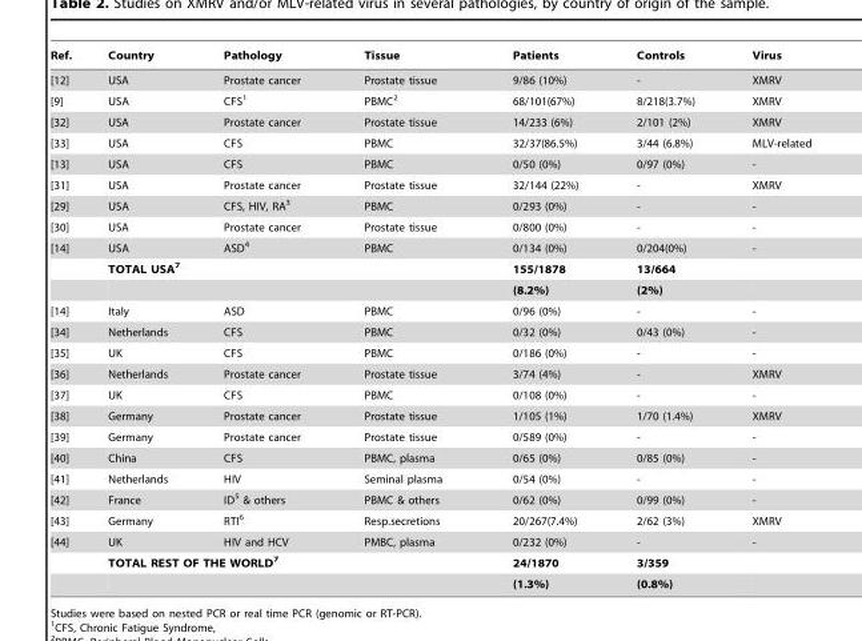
<table><thead><tr><td>Ref.</td><td>Country</td><td>Pathology</td><td>Tissue</td><td>Patients</td><td>Controls</td><td>Virus</td></tr></thead><tbody><tr><td>[12]</td><td>USA</td><td>Prostate cancer</td><td>Prostate tissue</td><td>9/86 (10%)</td><td>-</td><td>XMRV</td></tr><tr><td>[9]</td><td>USA</td><td>CFS<sup>1</sup></td><td>PBMC<sup>2</sup></td><td>68/101(67%)</td><td>8/218(3.7%)</td><td>XMRV</td></tr><tr><td>[32]</td><td>USA</td><td>Prostate cancer</td><td>Prostate tissue</td><td>14/233 (6%)</td><td>2/101 (2%)</td><td>XMRV</td></tr><tr><td>[33]</td><td>USA</td><td>CFS</td><td>PBMC</td><td>32/37(86.5%)</td><td>3/44 (6.8%)</td><td>MLV-related</td></tr><tr><td>[13]</td><td>USA</td><td>CFS</td><td>PBMC</td><td>0/50 (0%)</td><td>0/97 (0%)</td><td>-</td></tr><tr><td>[31]</td><td>USA</td><td>Prostate cancer</td><td>Prostate tissue</td><td>32/144 (22%)</td><td>-</td><td>XMRV</td></tr><tr><td>[29]</td><td>USA</td><td>CFS, HIV, RA<sup>3</sup></td><td>PBMC</td><td>0/293 (0%)</td><td>-</td><td>-</td></tr><tr><td>[30]</td><td>USA</td><td>Prostate cancer</td><td>Prostate tissue</td><td>0/800 (0%)</td><td>-</td><td>-</td></tr><tr><td rowspan="3">[14]</td><td>USA</td><td>ASD<sup>4</sup></td><td>PBMC</td><td>0/134 (0%)</td><td>0/204(0%)</td><td>-</td></tr><tr><td colspan="3">TOTAL USA<sup>7</sup></td><td>155/1878</td><td>13/664</td><td></td></tr><tr><td colspan="3"></td><td>(8.2%)</td><td>(2%)</td><td></td></tr><tr><td>[14]</td><td>Italy</td><td>ASD</td><td>PBMC</td><td>0/96 (0%)</td><td>-</td><td>-</td></tr><tr><td>[34]</td><td>Netherlands</td><td>CFS</td><td>PBMC</td><td>0/32 (0%)</td><td>0/43 (0%)</td><td>-</td></tr><tr><td>[35]</td><td>UK</td><td>CFS</td><td>PBMC</td><td>0/186 (0%)</td><td>-</td><td>-</td></tr><tr><td>[36]</td><td>Netherlands</td><td>Prostate cancer</td><td>Prostate tissue</td><td>3/74 (4%)</td><td>-</td><td>XMRV</td></tr><tr><td>[37]</td><td>UK</td><td>CFS</td><td>PBMC</td><td>0/108 (0%)</td><td>-</td><td>-</td></tr><tr><td>[38]</td><td>Germany</td><td>Prostate cancer</td><td>Prostate tissue</td><td>1/105 (1%)</td><td>1/70 (1.4%)</td><td>XMRV</td></tr><tr><td>[39]</td><td>Germany</td><td>Prostate cancer</td><td>Prostate tissue</td><td>0/589 (0%)</td><td>-</td><td>-</td></tr><tr><td>[40]</td><td>China</td><td>CFS</td><td>PBMC, plasma</td><td>0/65 (0%)</td><td>0/85 (0%)</td><td>-</td></tr><tr><td>[41]</td><td>Netherlands</td><td>HIV</td><td>Seminal plasma</td><td>0/54 (0%)</td><td>-</td><td>-</td></tr><tr><td>[42]</td><td>France</td><td>ID<sup>5</sup> &amp; others</td><td>PBMC &amp; others</td><td>0/62 (0%)</td><td>0/99 (0%)</td><td>-</td></tr><tr><td>[43]</td><td>Germany</td><td>RTI<sup>6</sup></td><td>Resp.secretions</td><td>20/267(7.4%)</td><td>2/62 (3%)</td><td>XMRV</td></tr><tr><td rowspan="3">[44]</td><td>UK</td><td>HIV and HCV</td><td>PMBC, plasma</td><td>0/232 (0%)</td><td>-</td><td>-</td></tr><tr><td colspan="3">TOTAL REST OF THE WORLD<sup>7</sup></td><td>24/1870</td><td>3/359</td><td></td></tr><tr><td colspan="3"></td><td>(1.3%)</td><td>(0.8%)</td><td></td></tr></tbody></table>